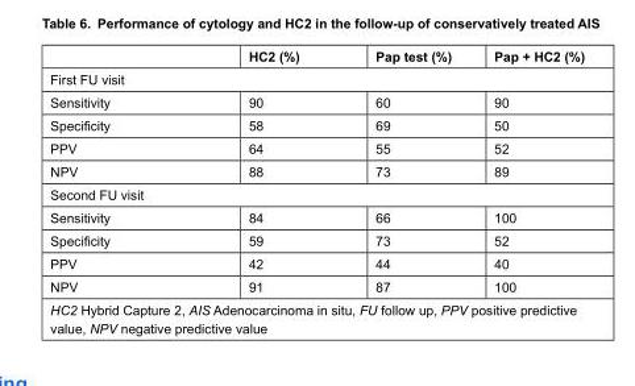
<table><thead><tr><td></td><td>HC2 (%)</td><td>Pap test (%)</td><td>Pap + HC2 (%)</td></tr></thead><tbody><tr><td colspan="4">First FU visit</td></tr><tr><td>Sensitivity</td><td>90</td><td>60</td><td>90</td></tr><tr><td>Specificity</td><td>58</td><td>69</td><td>50</td></tr><tr><td>PPV</td><td>64</td><td>55</td><td>52</td></tr><tr><td>NPV</td><td>88</td><td>73</td><td>89</td></tr><tr><td colspan="4">Second FU visit</td></tr><tr><td>Sensitivity</td><td>84</td><td>66</td><td>100</td></tr><tr><td>Specificity</td><td>59</td><td>73</td><td>52</td></tr><tr><td>PPV</td><td>42</td><td>44</td><td>40</td></tr><tr><td>NPV</td><td>91</td><td>87</td><td>100</td></tr><tr><td colspan="4">HC2 Hybrid Capture 2, AIS Adenocarcinoma in situ, FU follow up, PPV positive predictive value, NPV negative predictive value</td></tr></tbody></table>